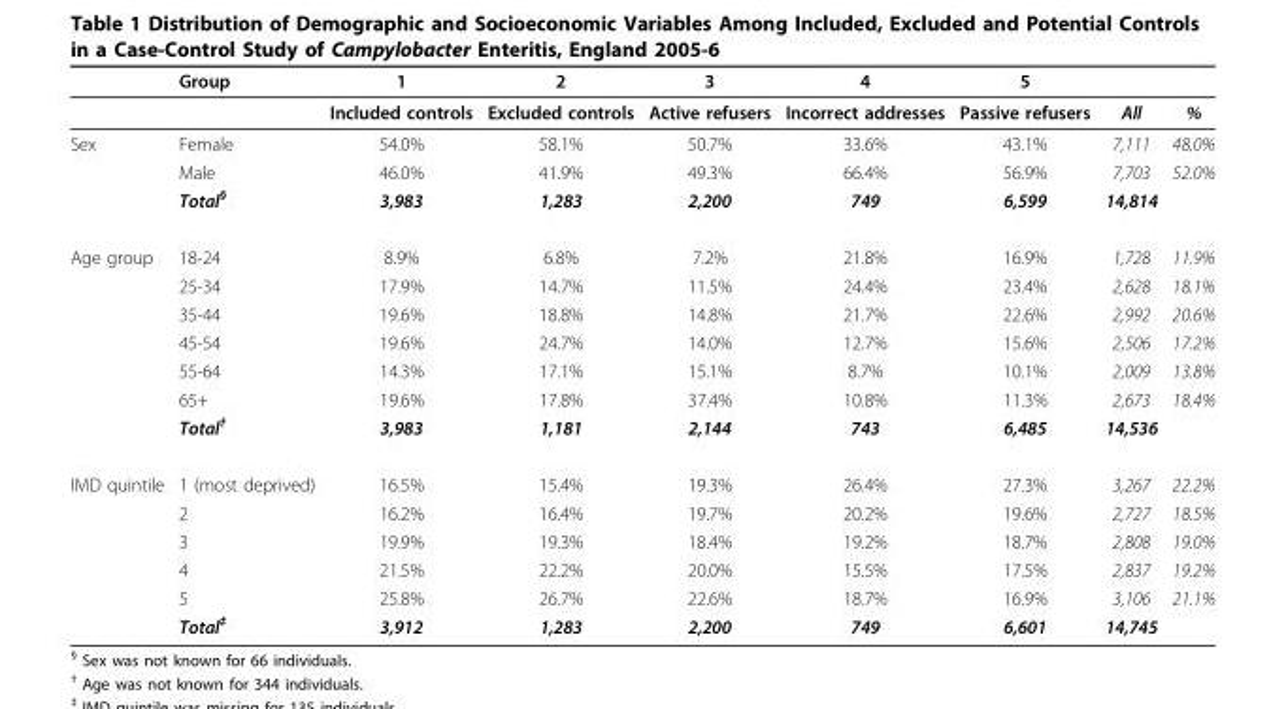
<table><thead><tr><td></td><td>Group</td><td>1</td><td>2</td><td>3</td><td>4</td><td>5</td><td></td><td></td></tr></thead><tbody><tr><td></td><td></td><td>Included controls</td><td>Excluded controls</td><td>Active refusers</td><td>Incorrect addresses</td><td>Passive refusers</td><td>All</td><td>%</td></tr><tr><td rowspan="3">Sex</td><td>Female</td><td>54.0%</td><td>58.1%</td><td>50.7%</td><td>33.6%</td><td>43.1%</td><td>7,111</td><td>48.0%</td></tr><tr><td>Male</td><td>46.0%</td><td>41.9%</td><td>49.3%</td><td>66.4%</td><td>56.9%</td><td>7,703</td><td>52.0%</td></tr><tr><td>Total<sup>§</sup></td><td>3,983</td><td>1,283</td><td>2,200</td><td>749</td><td>6,599</td><td>14,814</td><td></td></tr><tr><td rowspan="7">Age group</td><td>18-24</td><td>8.9%</td><td>6.8%</td><td>7.2%</td><td>21.8%</td><td>16.9%</td><td>1,728</td><td>11.9%</td></tr><tr><td>25-34</td><td>17.9%</td><td>14.7%</td><td>11.5%</td><td>24.4%</td><td>23.4%</td><td>2,628</td><td>18.1%</td></tr><tr><td>35-44</td><td>19.6%</td><td>18.8%</td><td>14.8%</td><td>21.7%</td><td>22.6%</td><td>2,992</td><td>20.6%</td></tr><tr><td>45-54</td><td>19.6%</td><td>24.7%</td><td>14.0%</td><td>12.7%</td><td>15.6%</td><td>2,506</td><td>17.2%</td></tr><tr><td>55-64</td><td>14.3%</td><td>17.1%</td><td>15.1%</td><td>8.7%</td><td>10.1%</td><td>2,009</td><td>13.8%</td></tr><tr><td>65+</td><td>19.6%</td><td>17.8%</td><td>37.4%</td><td>10.8%</td><td>11.3%</td><td>2,673</td><td>18.4%</td></tr><tr><td>Total<sup>†</sup></td><td>3,983</td><td>1,181</td><td>2,144</td><td>743</td><td>6,485</td><td>14,536</td><td></td></tr><tr><td rowspan="6">IMD quintile</td><td>1 (most deprived)</td><td>16.5%</td><td>15.4%</td><td>19.3%</td><td>26.4%</td><td>27.3%</td><td>3,267</td><td>22.2%</td></tr><tr><td>2</td><td>16.2%</td><td>16.4%</td><td>19.7%</td><td>20.2%</td><td>19.6%</td><td>2,727</td><td>18.5%</td></tr><tr><td>3</td><td>19.9%</td><td>19.3%</td><td>18.4%</td><td>19.2%</td><td>18.7%</td><td>2,808</td><td>19.0%</td></tr><tr><td>4</td><td>21.5%</td><td>22.2%</td><td>20.0%</td><td>15.5%</td><td>17.5%</td><td>2,837</td><td>19.2%</td></tr><tr><td>5</td><td>25.8%</td><td>26.7%</td><td>22.6%</td><td>18.7%</td><td>16.9%</td><td>3,106</td><td>21.1%</td></tr><tr><td>Total<sup>‡</sup></td><td>3,912</td><td>1,283</td><td>2,200</td><td>749</td><td>6,601</td><td>14,745</td><td></td></tr></tbody></table>